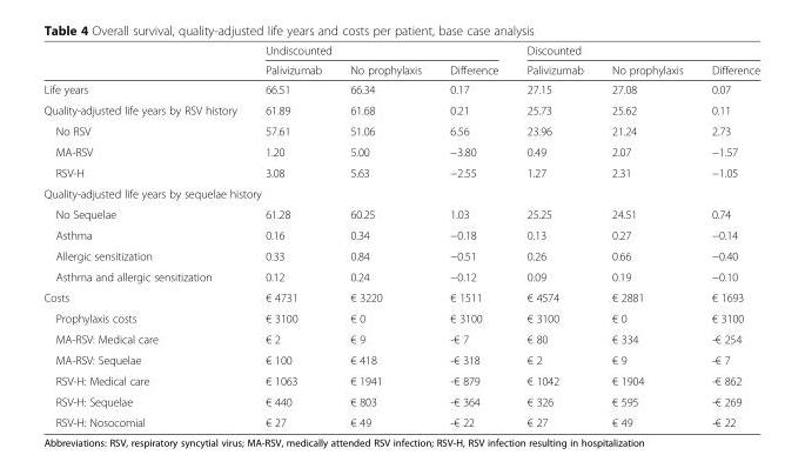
<table><thead><tr><td rowspan="2"></td><td colspan="3">Undiscounted</td><td colspan="3">Discounted</td></tr><tr><td>Palivizumab</td><td>No prophylaxis</td><td>Difference</td><td>Palivizumab</td><td>No prophylaxis</td><td>Difference</td></tr></thead><tbody><tr><td>Life years</td><td>66.51</td><td>66.34</td><td>0.17</td><td>27.15</td><td>27.08</td><td>0.07</td></tr><tr><td>Quality-adjusted life years by RSV history</td><td>61.89</td><td>61.68</td><td>0.21</td><td>25.73</td><td>25.62</td><td>0.11</td></tr><tr><td>No RSV</td><td>57.61</td><td>51.06</td><td>6.56</td><td>23.96</td><td>21.24</td><td>2.73</td></tr><tr><td>MA-RSV</td><td>1.20</td><td>5.00</td><td>−3.80</td><td>0.49</td><td>2.07</td><td>−1.57</td></tr><tr><td>RSV-H</td><td>3.08</td><td>5.63</td><td>−2.55</td><td>1.27</td><td>2.31</td><td>−1.05</td></tr><tr><td colspan="7">Quality-adjusted life years by sequelae history</td></tr><tr><td>No Sequelae</td><td>61.28</td><td>60.25</td><td>1.03</td><td>25.25</td><td>24.51</td><td>0.74</td></tr><tr><td>Asthma</td><td>0.16</td><td>0.34</td><td>−0.18</td><td>0.13</td><td>0.27</td><td>−0.14</td></tr><tr><td>Allergic sensitization</td><td>0.33</td><td>0.84</td><td>−0.51</td><td>0.26</td><td>0.66</td><td>−0.40</td></tr><tr><td>Asthma and allergic sensitization</td><td>0.12</td><td>0.24</td><td>−0.12</td><td>0.09</td><td>0.19</td><td>−0.10</td></tr><tr><td>Costs</td><td>€ 4731</td><td>€ 3220</td><td>€ 1511</td><td>€ 4574</td><td>€ 2881</td><td>€ 1693</td></tr><tr><td>Prophylaxis costs</td><td>€ 3100</td><td>€ 0</td><td>€ 3100</td><td>€ 3100</td><td>€ 0</td><td>€ 3100</td></tr><tr><td>MA-RSV: Medical care</td><td>€ 2</td><td>€ 9</td><td>-€ 7</td><td>€ 80</td><td>€ 334</td><td>-€ 254</td></tr><tr><td>MA-RSV: Sequelae</td><td>€ 100</td><td>€ 418</td><td>-€ 318</td><td>€ 2</td><td>€ 9</td><td>-€ 7</td></tr><tr><td>RSV-H: Medical care</td><td>€ 1063</td><td>€ 1941</td><td>-€ 879</td><td>€ 1042</td><td>€ 1904</td><td>-€ 862</td></tr><tr><td>RSV-H: Sequelae</td><td>€ 440</td><td>€ 803</td><td>-€ 364</td><td>€ 326</td><td>€ 595</td><td>-€ 269</td></tr><tr><td>RSV-H: Nosocomial</td><td>€ 27</td><td>€ 49</td><td>-€ 22</td><td>€ 27</td><td>€ 49</td><td>-€ 22</td></tr></tbody></table>